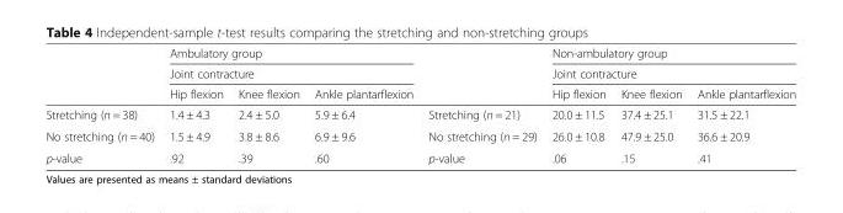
<table><thead><tr><td rowspan="3"></td><td rowspan="2" colspan="3">Ambulatory group Joint contracture</td><td rowspan="3"></td><td rowspan="2" colspan="3">Non-ambulatory group Joint contracture</td></tr><tr></tr><tr><td>Hip flexion</td><td>Knee flexion</td><td>Ankle plantarflexion</td><td>Hip flexion</td><td>Knee flexion</td><td>Ankle plantarflexion</td></tr></thead><tbody><tr><td>Stretching (n = 38)</td><td>1.4 ± 4.3</td><td>2.4 ± 5.0</td><td>5.9 ± 6.4</td><td>Stretching (n = 21)</td><td>20.0 ± 11.5</td><td>37.4 ± 25.1</td><td>31.5 ± 22.1</td></tr><tr><td>No stretching (n = 40)</td><td>1.5 ± 4.9</td><td>3.8 ± 8.6</td><td>6.9 ± 9.6</td><td>No stretching (n = 29)</td><td>26.0 ± 10.8</td><td>47.9 ± 25.0</td><td>36.6 ± 20.9</td></tr><tr><td>p-value</td><td>.92</td><td>.39</td><td>.60</td><td>p-value</td><td>.06</td><td>.15</td><td>.41</td></tr></tbody></table>